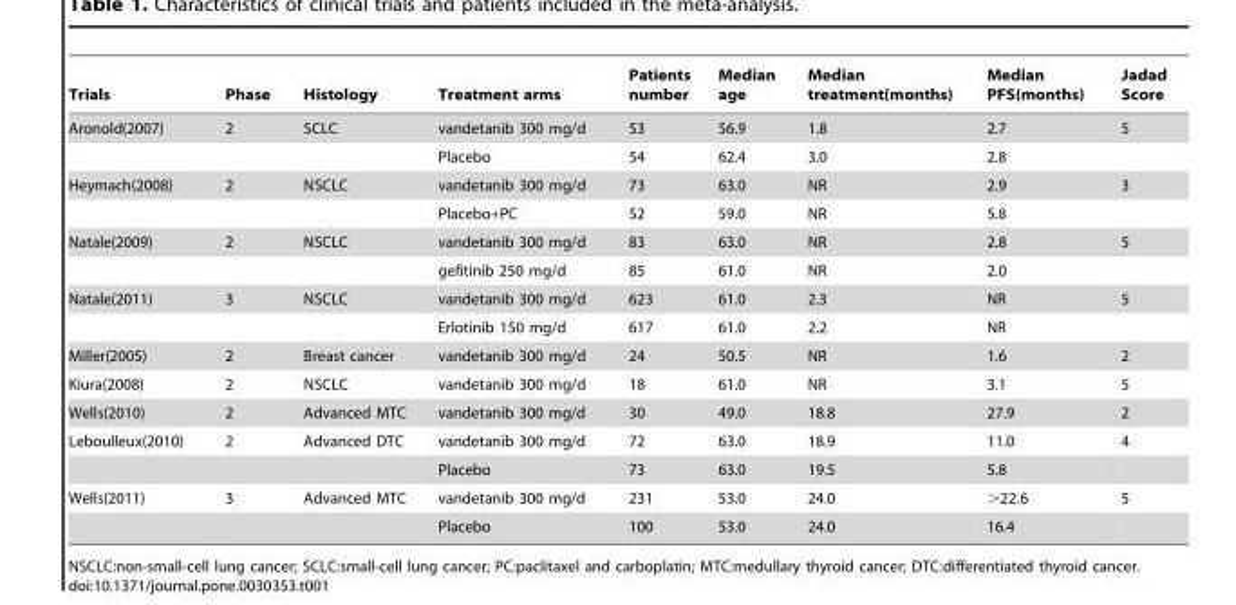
<table><thead><tr><td>Trials</td><td>Phase</td><td>Histology</td><td>Treatment arms</td><td>Patients number</td><td>Median age</td><td>Median treatment(months)</td><td>Median PFS(months)</td><td>Jadad Score</td></tr></thead><tbody><tr><td rowspan="2">Aronold(2007)</td><td>2</td><td>SCLC</td><td>vandetanib 300 mg/d</td><td>53</td><td>56.9</td><td>1.8</td><td>2.7</td><td>5</td></tr><tr><td></td><td></td><td>Placebo</td><td>54</td><td>62.4</td><td>3.0</td><td>2.8</td><td></td></tr><tr><td rowspan="2">Heymach(2008)</td><td>2</td><td>NSCLC</td><td>vandetanib 300 mg/d</td><td>73</td><td>63.0</td><td>NR</td><td>2.9</td><td>3</td></tr><tr><td></td><td></td><td>Placebo+PC</td><td>52</td><td>59.0</td><td>NR</td><td>5.8</td><td></td></tr><tr><td rowspan="2">Natale(2009)</td><td>2</td><td>NSCLC</td><td>vandetanib 300 mg/d</td><td>83</td><td>63.0</td><td>NR</td><td>2.8</td><td>5</td></tr><tr><td></td><td></td><td>gefitinib 250 mg/d</td><td>85</td><td>61.0</td><td>NR</td><td>2.0</td><td></td></tr><tr><td rowspan="2">Natale(2011)</td><td>3</td><td>NSCLC</td><td>vandetanib 300 mg/d</td><td>623</td><td>61.0</td><td>2.3</td><td>NR</td><td>5</td></tr><tr><td></td><td></td><td>Erlotinib 150 mg/d</td><td>617</td><td>61.0</td><td>2.2</td><td>NR</td><td></td></tr><tr><td>Miller(2005)</td><td>2</td><td>Breast cancer</td><td>vandetanib 300 mg/d</td><td>24</td><td>50.5</td><td>NR</td><td>1.6</td><td>2</td></tr><tr><td>Kiura(2008)</td><td>2</td><td>NSCLC</td><td>vandetanib 300 mg/d</td><td>18</td><td>61.0</td><td>NR</td><td>3.1</td><td>5</td></tr><tr><td>Wells(2010)</td><td>2</td><td>Advanced MTC</td><td>vandetanib 300 mg/d</td><td>30</td><td>49.0</td><td>18.8</td><td>27.9</td><td>2</td></tr><tr><td rowspan="2">Leboulleux(2010)</td><td>2</td><td>Advanced DTC</td><td>vandetanib 300 mg/d</td><td>72</td><td>63.0</td><td>18.9</td><td>11.0</td><td>4</td></tr><tr><td></td><td></td><td>Placebo</td><td>73</td><td>63.0</td><td>19.5</td><td>5.8</td><td></td></tr><tr><td rowspan="2">Wells(2011)</td><td>3</td><td>Advanced MTC</td><td>vandetanib 300 mg/d</td><td>231</td><td>53.0</td><td>24.0</td><td>&gt;22.6</td><td>5</td></tr><tr><td></td><td></td><td>Placebo</td><td>100</td><td>53.0</td><td>24.0</td><td>16.4</td><td></td></tr></tbody></table>